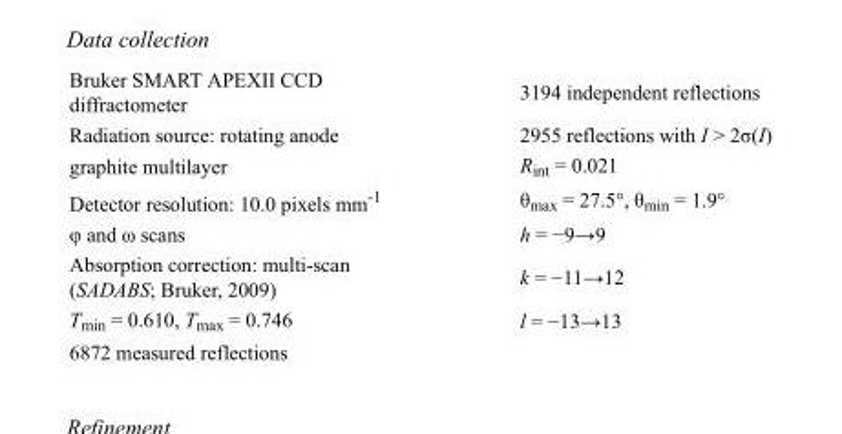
<table><tbody><tr><td>Bruker SMART APEXII CCD diffractometer</td><td>3194 independent reflections</td></tr><tr><td>Radiation source: rotating anode</td><td>2955 reflections with I &gt; 2σ(I)</td></tr><tr><td>graphite multilayer</td><td>R<sub>int</sub> = 0.021</td></tr><tr><td>Detector resolution: 10.0 pixels mm<sup>-1</sup></td><td>θ<sub>max</sub> = 27.5°, θ<sub>min</sub> = 1.9°</td></tr><tr><td>φ and ω scans</td><td>h = −9→9</td></tr><tr><td>Absorption correction: multi-scan (SADABS; Bruker, 2009)</td><td>k = −11→12</td></tr><tr><td>T<sub>min</sub> = 0.610, T<sub>max</sub> = 0.746</td><td>l = −13→13</td></tr><tr><td>6872 measured reflections</td><td></td></tr></tbody></table>